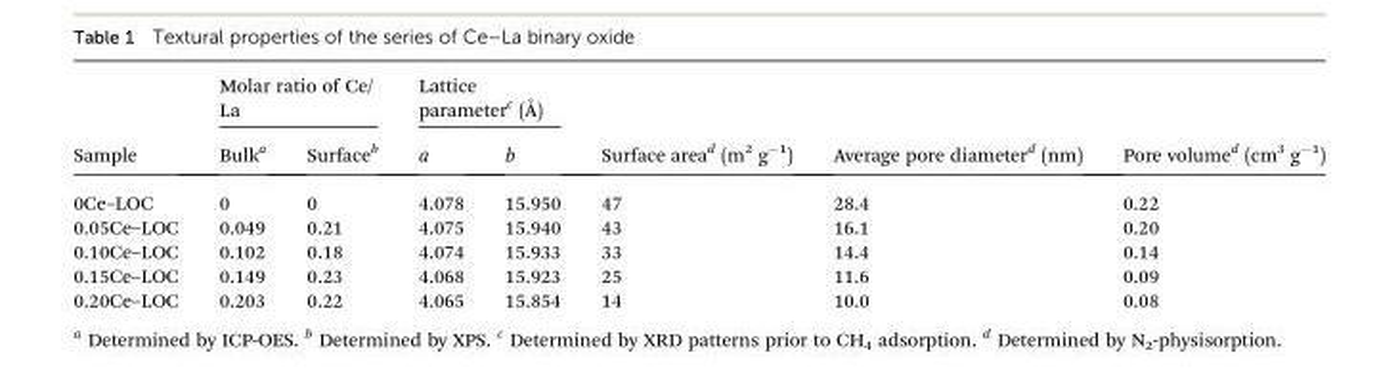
<table><thead><tr><td rowspan="2">Sample</td><td colspan="2">Molar ratio of Ce/ La</td><td colspan="2">Lattice parameterc (˚A)</td><td rowspan="2">Surface area<sup>d</sup> (m<sup>2</sup> g<sup>–1</sup>)</td><td rowspan="2">Average pore diameter<sup>d</sup> (nm)</td><td rowspan="2">Pore volume<sup>d</sup> (cm<sup>3</sup> g<sup>–1</sup>)</td></tr><tr><td>Bulk<sup>a</sup></td><td>Surface<sup>b</sup></td><td>a</td><td>b</td></tr></thead><tbody><tr><td>0Ce–LOC</td><td>0</td><td>0</td><td>4.078</td><td>15.950</td><td>47</td><td>28.4</td><td>0.22</td></tr><tr><td>0.05Ce–LOC</td><td>0.049</td><td>0.21</td><td>4.075</td><td>15.940</td><td>43</td><td>16.1</td><td>0.20</td></tr><tr><td>0.10Ce–LOC</td><td>0.102</td><td>0.18</td><td>4.074</td><td>15.933</td><td>33</td><td>14.4</td><td>0.14</td></tr><tr><td>0.15Ce–LOC</td><td>0.149</td><td>0.23</td><td>4.068</td><td>15.923</td><td>25</td><td>11.6</td><td>0.09</td></tr><tr><td>0.20Ce–LOC</td><td>0.203</td><td>0.22</td><td>4.065</td><td>15.854</td><td>14</td><td>10.0</td><td>0.08</td></tr></tbody></table>